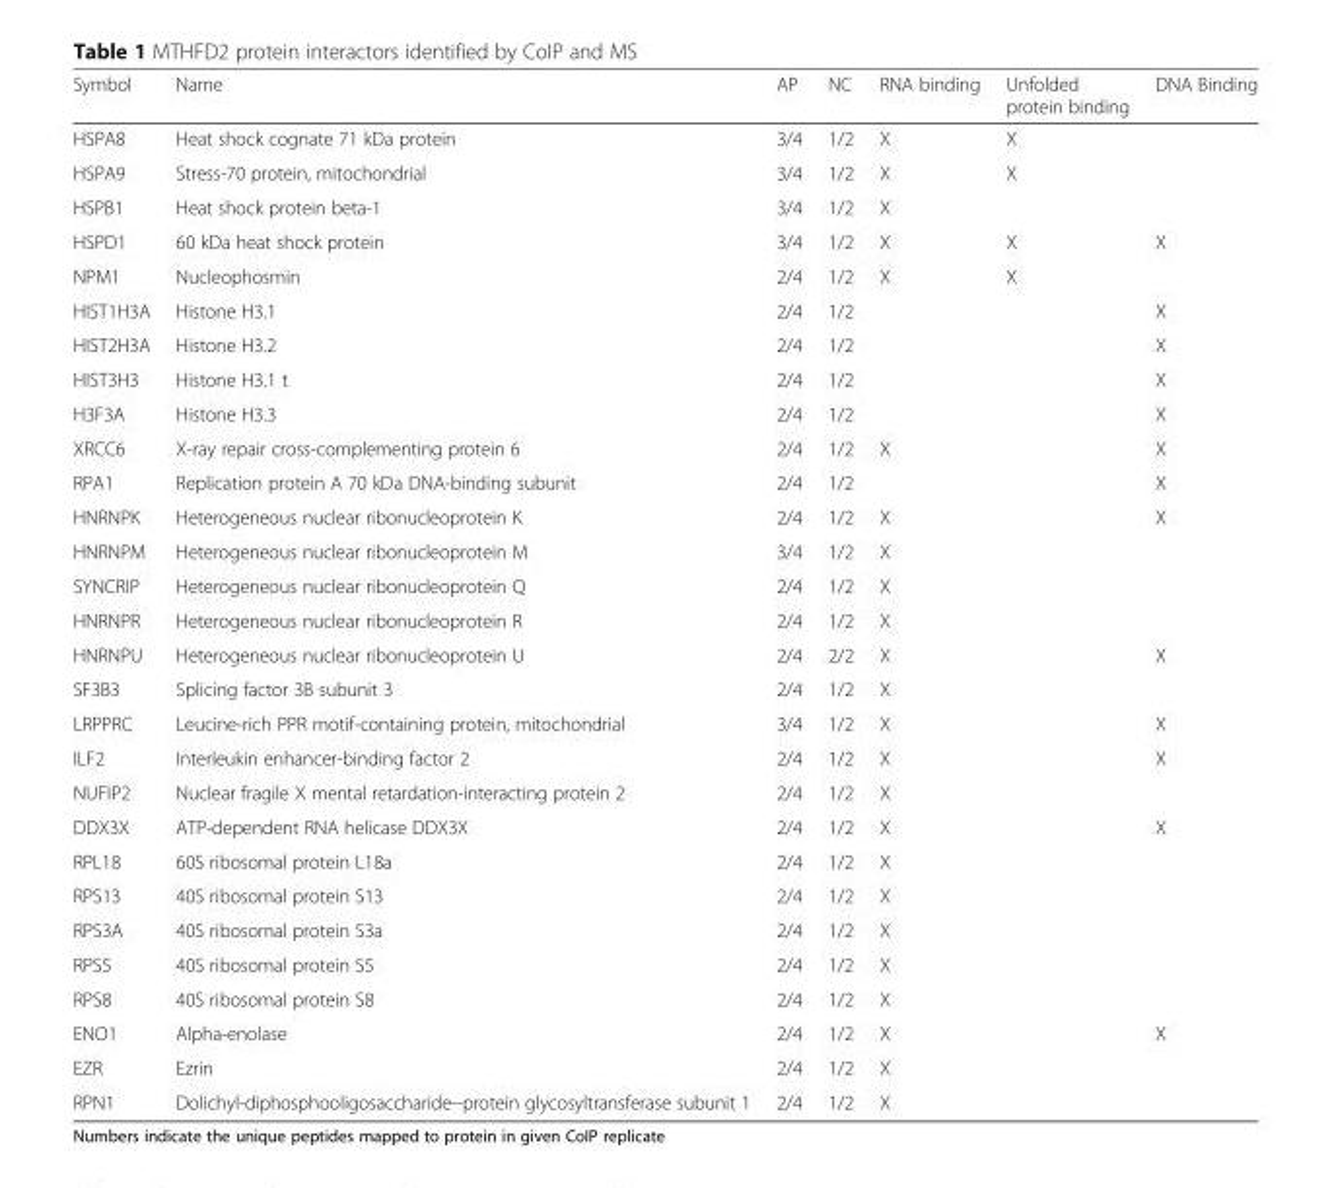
<table><thead><tr><td>Symbol</td><td>Name</td><td>AP</td><td>NC</td><td>RNA binding</td><td>Unfolded protein binding</td><td>DNA Binding</td></tr></thead><tbody><tr><td>HSPA8</td><td>Heat shock cognate 71 kDa protein</td><td>3/4</td><td>1/2</td><td>X</td><td>X</td><td></td></tr><tr><td>HSPA9</td><td>Stress-70 protein, mitochondrial</td><td>3/4</td><td>1/2</td><td>X</td><td>X</td><td></td></tr><tr><td>HSPB1</td><td>Heat shock protein beta-1</td><td>3/4</td><td>1/2</td><td>X</td><td></td><td></td></tr><tr><td>HSPD1</td><td>60 kDa heat shock protein</td><td>3/4</td><td>1/2</td><td>X</td><td>X</td><td>X</td></tr><tr><td>NPM1</td><td>Nucleophosmin</td><td>2/4</td><td>1/2</td><td>X</td><td>X</td><td></td></tr><tr><td>HIST1H3A</td><td>Histone H3.1</td><td>2/4</td><td>1/2</td><td></td><td></td><td>X</td></tr><tr><td>HIST2H3A</td><td>Histone H3.2</td><td>2/4</td><td>1/2</td><td></td><td></td><td>X</td></tr><tr><td>HIST3H3</td><td>Histone H3.1 t</td><td>2/4</td><td>1/2</td><td></td><td></td><td>X</td></tr><tr><td>H3F3A</td><td>Histone H3.3</td><td>2/4</td><td>1/2</td><td></td><td></td><td>X</td></tr><tr><td>XRCC6</td><td>X-ray repair cross-complementing protein 6</td><td>2/4</td><td>1/2</td><td>X</td><td></td><td>X</td></tr><tr><td>RPA1</td><td>Replication protein A 70 kDa DNA-binding subunit</td><td>2/4</td><td>1/2</td><td></td><td></td><td>X</td></tr><tr><td>HNRNPK</td><td>Heterogeneous nuclear ribonucleoprotein K</td><td>2/4</td><td>1/2</td><td>X</td><td></td><td>X</td></tr><tr><td>HNRNPM</td><td>Heterogeneous nuclear ribonucleoprotein M</td><td>3/4</td><td>1/2</td><td>X</td><td></td><td></td></tr><tr><td>SYNCRIP</td><td>Heterogeneous nuclear ribonucleoprotein Q</td><td>2/4</td><td>1/2</td><td>X</td><td></td><td></td></tr><tr><td>HNRNPR</td><td>Heterogeneous nuclear ribonucleoprotein R</td><td>2/4</td><td>1/2</td><td>X</td><td></td><td></td></tr><tr><td>HNRNPU</td><td>Heterogeneous nuclear ribonucleoprotein U</td><td>2/4</td><td>2/2</td><td>X</td><td></td><td>X</td></tr><tr><td>SF3B3</td><td>Splicing factor 3B subunit 3</td><td>2/4</td><td>1/2</td><td>X</td><td></td><td></td></tr><tr><td>LRPPRC</td><td>Leucine-rich PPR motif-containing protein, mitochondrial</td><td>3/4</td><td>1/2</td><td>X</td><td></td><td>X</td></tr><tr><td>ILF2</td><td>Interleukin enhancer-binding factor 2</td><td>2/4</td><td>1/2</td><td>X</td><td></td><td>X</td></tr><tr><td>NUFIP2</td><td>Nuclear fragile X mental retardation-interacting protein 2</td><td>2/4</td><td>1/2</td><td>X</td><td></td><td></td></tr><tr><td>DDX3X</td><td>ATP-dependent RNA helicase DDX3X</td><td>2/4</td><td>1/2</td><td>X</td><td></td><td>X</td></tr><tr><td>RPL18</td><td>60S ribosomal protein L18a</td><td>2/4</td><td>1/2</td><td>X</td><td></td><td></td></tr><tr><td>RPS13</td><td>40S ribosomal protein S13</td><td>2/4</td><td>1/2</td><td>X</td><td></td><td></td></tr><tr><td>RPS3A</td><td>40S ribosomal protein S3a</td><td>2/4</td><td>1/2</td><td>X</td><td></td><td></td></tr><tr><td>RPS5</td><td>40S ribosomal protein S5</td><td>2/4</td><td>1/2</td><td>X</td><td></td><td></td></tr><tr><td>RPS8</td><td>40S ribosomal protein S8</td><td>2/4</td><td>1/2</td><td>X</td><td></td><td></td></tr><tr><td>ENO1</td><td>Alpha-enolase</td><td>2/4</td><td>1/2</td><td>X</td><td></td><td>X</td></tr><tr><td>EZR</td><td>Ezrin</td><td>2/4</td><td>1/2</td><td>X</td><td></td><td></td></tr><tr><td>RPN1</td><td>Dolichyl-diphosphooligosaccharide--protein glycosyltransferase subunit 1</td><td>2/4</td><td>1/2</td><td>X</td><td></td><td></td></tr></tbody></table>